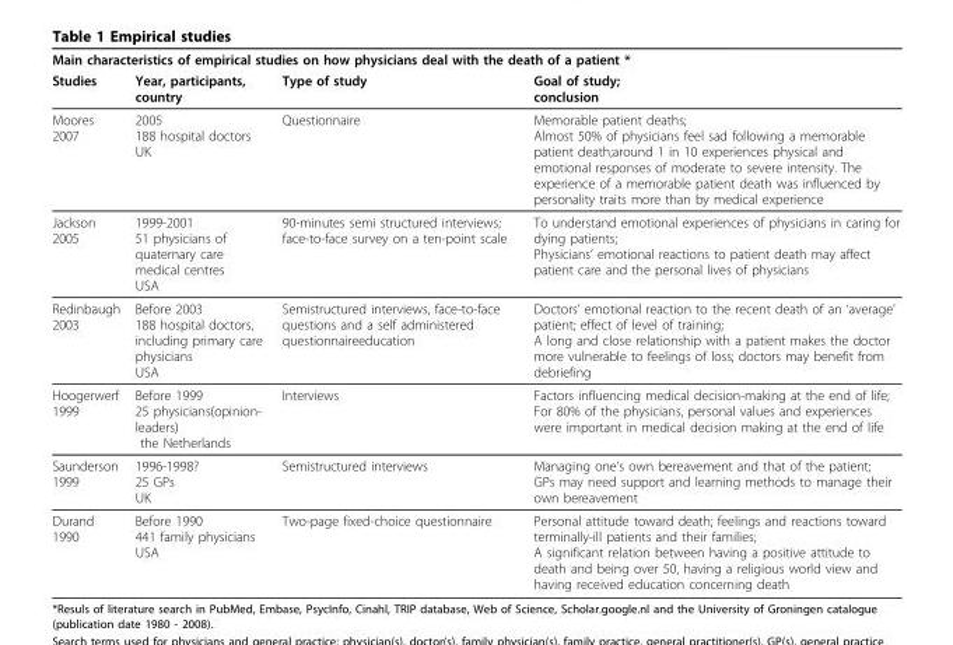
<table><thead><tr><td colspan="4">Main characteristics of empirical studies on how physicians deal with the death of a patient *</td></tr><tr><td>Studies</td><td>Year, participants, country</td><td>Type of study</td><td>Goal of study; conclusion</td></tr></thead><tbody><tr><td>Moores 2007</td><td>2005 188 hospital doctors UK</td><td>Questionnaire</td><td>Memorable patient deaths; Almost 50% of physicians feel sad following a memorable patient death;around 1 in 10 experiences physical and emotional responses of moderate to severe intensity. The experience of a memorable patient death was influenced by personality traits more than by medical experience</td></tr><tr><td>Jackson 2005</td><td>1999-2001 51 physicians of quaternary care medical centres USA</td><td>90-minutes semi structured interviews; face-to-face survey on a ten-point scale</td><td>To understand emotional experiences of physicians in caring for dying patients; Physicians’ emotional reactions to patient death may affect patient care and the personal lives of physicians</td></tr><tr><td>Redinbaugh 2003</td><td>Before 2003 188 hospital doctors, including primary care physicians USA</td><td>Semistructured interviews, face-to-face questions and a self administered questionnaireeducation</td><td>Doctors’ emotional reaction to the recent death of an ‘average’ patient; effect of level of training; A long and close relationship with a patient makes the doctor more vulnerable to feelings of loss; doctors may benefit from debriefing</td></tr><tr><td>Hoogerwerf 1999</td><td>Before 1999 25 physicians(opinion- leaders) the Netherlands</td><td>Interviews</td><td>Factors influencing medical decision-making at the end of life; For 80% of the physicians, personal values and experiences were important in medical decision making at the end of life</td></tr><tr><td>Saunderson 1999</td><td>1996-1998? 25 GPs UK</td><td>Semistructured interviews</td><td>Managing one’s own bereavement and that of the patient; GPs may need support and learning methods to manage their own bereavement</td></tr><tr><td>Durand 1990</td><td>Before 1990 441 family physicians USA</td><td>Two-page fixed-choice questionnaire</td><td>Personal attitude toward death; feelings and reactions toward terminally-ill patients and their families; A significant relation between having a positive attitude to death and being over 50, having a religious world view and having received education concerning death</td></tr></tbody></table>